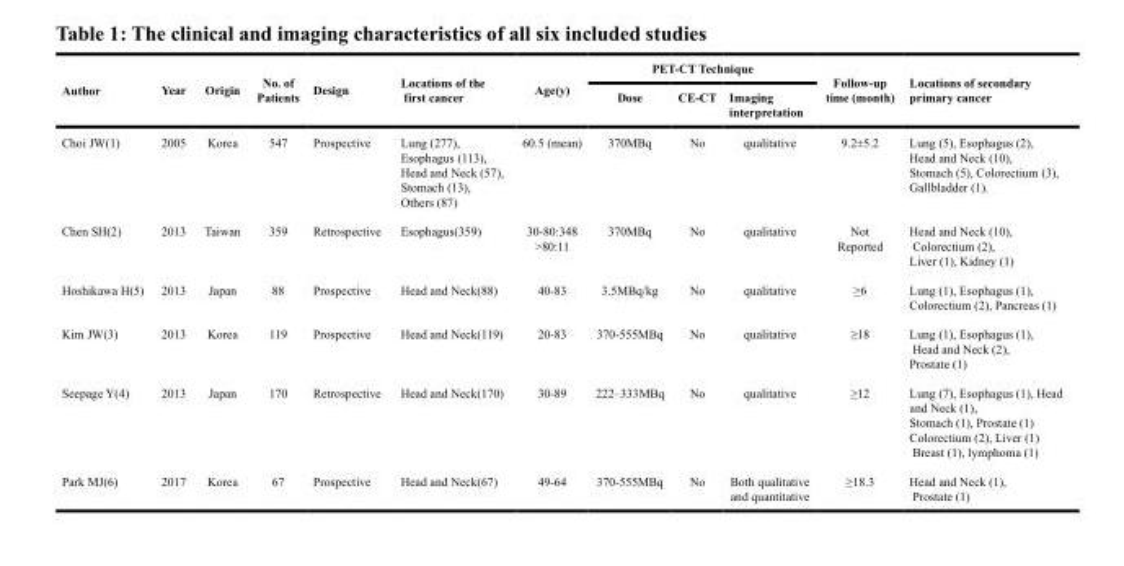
<table><thead><tr><td rowspan="2">Author</td><td rowspan="2">Year</td><td rowspan="2">Origin</td><td rowspan="2">No. of Patients</td><td rowspan="2">Design</td><td rowspan="2">Locations of the first cancer</td><td rowspan="2">Age(y)</td><td colspan="3">PET-CT Technique</td><td rowspan="2">Follow-up time (month)</td><td rowspan="2">Locations of secondary primary cancer</td></tr><tr><td>Dose</td><td>CE-CT</td><td>Imaging interpretation</td></tr></thead><tbody><tr><td>Choi JW(1)</td><td>2005</td><td>Korea</td><td>547</td><td>Prospective</td><td>Lung (277), Esophagus (113), Head and Neck (57), Stomach (13), Others (87)</td><td>60.5 (mean)</td><td>370MBq</td><td>No</td><td>qualitative</td><td>9.2±5.2</td><td>Lung (5), Esophagus (2), Head and Neck (10), Stomach (5), Colorectium (3), Gallbladder (1).</td></tr><tr><td>Chen SH(2)</td><td>2013</td><td>Taiwan</td><td>359</td><td>Retrospective</td><td>Esophagus(359)</td><td>30-80:348 &gt;80:11</td><td>370MBq</td><td>No</td><td>qualitative</td><td>Not Reported</td><td>Head and Neck (10), Colorectium (2), Liver (1), Kidney (1)</td></tr><tr><td>Hoshikawa H(5)</td><td>2013</td><td>Japan</td><td>88</td><td>Prospective</td><td>Head and Neck(88)</td><td>40-83</td><td>3.5MBq/kg</td><td>No</td><td>qualitative</td><td>≥6</td><td>Lung (1), Esophagus (1), Colorectium (2), Pancreas (1)</td></tr><tr><td>Kim JW(3)</td><td>2013</td><td>Korea</td><td>119</td><td>Prospective</td><td>Head and Neck(119)</td><td>20-83</td><td>370-555MBq</td><td>No</td><td>qualitative</td><td>≥18</td><td>Lung (1), Esophagus (1), Head and Neck (2), Prostate (1)</td></tr><tr><td>Seepage Y(4)</td><td>2013</td><td>Japan</td><td>170</td><td>Retrospective</td><td>Head and Neck(170)</td><td>30-89</td><td>222–333MBq</td><td>No</td><td>qualitative</td><td>≥12</td><td>Lung (7), Esophagus (1), Head and Neck (1), Stomach (1), Prostate (1) Colorectium (2), Liver (1) Breast (1), lymphoma (1)</td></tr><tr><td>Park MJ(6)</td><td>2017</td><td>Korea</td><td>67</td><td>Prospective</td><td>Head and Neck(67)</td><td>49-64</td><td>370-555MBq</td><td>No</td><td>Both qualitative and quantitative</td><td>≥18.3</td><td>Head and Neck (1), Prostate (1)</td></tr></tbody></table>